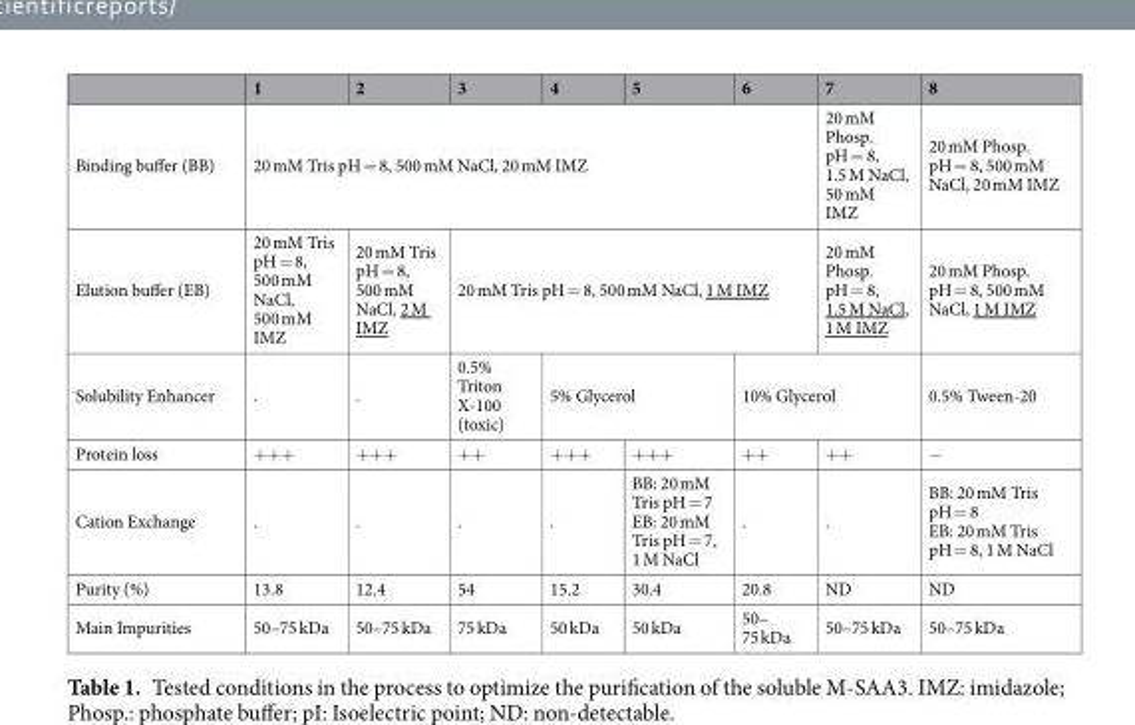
<table><thead><tr><td></td><td>1</td><td>2</td><td>3</td><td>4</td><td>5</td><td>6</td><td>7</td><td>8</td></tr></thead><tbody><tr><td>Binding buffer (BB)</td><td colspan="6">20 mM Tris pH = 8, 500 mM NaCl, 20 mM IMZ</td><td>20 mM Phosp. pH = 8, 1.5 M NaCl, 50 mM IMZ</td><td>20 mM Phosp. pH = 8, 500 mM NaCl, 20 mM IMZ</td></tr><tr><td>Elution buffer (EB)</td><td>20 mM Tris pH = 8, 500 mM NaCl, 500 mM IMZ</td><td>20 mM Tris pH = 8, 500 mM NaCl, 2 M IMZ</td><td colspan="4">20 mM Tris pH = 8, 500 mM NaCl, 1 M IMZ</td><td>20 mM Phosp. pH = 8, 1.5 M NaCl, 1 M IMZ</td><td>20 mM Phosp. pH = 8, 500 mM NaCl, 1 M IMZ</td></tr><tr><td>Solubility Enhancer</td><td>.</td><td>.</td><td>0.5% Triton X-100 (toxic)</td><td colspan="2">5% Glycerol</td><td colspan="2">10% Glycerol</td><td>0.5% Tween-20</td></tr><tr><td>Protein loss</td><td>+++</td><td>+++</td><td>++</td><td>+++</td><td>+++</td><td>++</td><td>++</td><td>−</td></tr><tr><td>Cation Exchange</td><td>.</td><td>.</td><td>.</td><td>.</td><td>BB: 20 mM Tris pH = 7 EB: 20 mM Tris pH = 7, 1 M NaCl</td><td>.</td><td>.</td><td>BB: 20 mM Tris pH = 8 EB: 20 mM Tris pH = 8, 1 M NaCl</td></tr><tr><td>Purity (%)</td><td>13.8</td><td>12.4</td><td>54</td><td>15.2</td><td>30.4</td><td>20.8</td><td>ND</td><td>ND</td></tr><tr><td>Main Impurities</td><td>50–75 kDa</td><td>50–75 kDa</td><td>75 kDa</td><td>50 kDa</td><td>50 kDa</td><td>50– 75 kDa</td><td>50–75 kDa</td><td>50–75 kDa</td></tr></tbody></table>